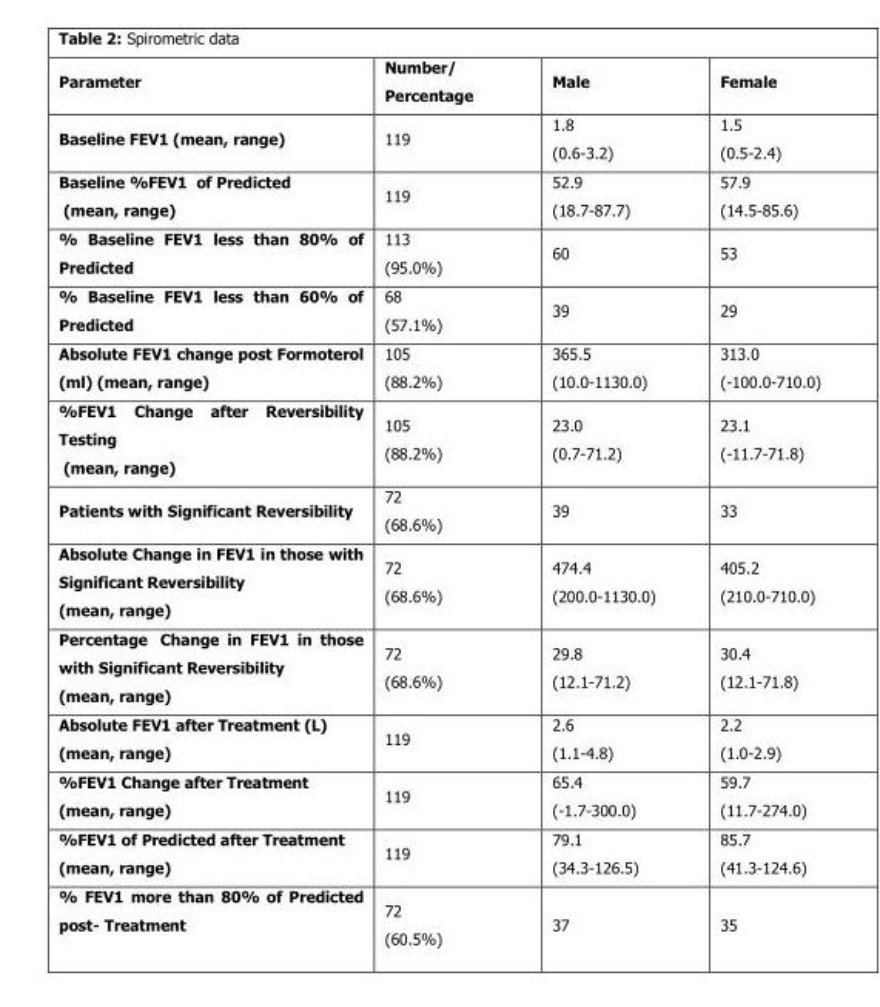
<table><thead><tr><td>Parameter</td><td>Number/ Percentage</td><td>Male</td><td>Female</td></tr></thead><tbody><tr><td>Baseline FEV1 (mean, range)</td><td>119</td><td>1.8 (0.6-3.2)</td><td>1.5 (0.5-2.4)</td></tr><tr><td>Baseline %FEV1 of Predicted (mean, range)</td><td>119</td><td>52.9 (18.7-87.7)</td><td>57.9 (14.5-85.6)</td></tr><tr><td>% Baseline FEV1 less than 80% of Predicted</td><td>113 (95.0%)</td><td>60</td><td>53</td></tr><tr><td>% Baseline FEV1 less than 60% of Predicted</td><td>68 (57.1%)</td><td>39</td><td>29</td></tr><tr><td>Absolute FEV1 change post Formoterol (ml) (mean, range)</td><td>105 (88.2%)</td><td>365.5 (10.0-1130.0)</td><td>313.0 (-100.0-710.0)</td></tr><tr><td>%FEV1 Change after Reversibility Testing (mean, range)</td><td>105 (88.2%)</td><td>23.0 (0.7-71.2)</td><td>23.1 (-11.7-71.8)</td></tr><tr><td>Patients with Significant Reversibility</td><td>72 (68.6%)</td><td>39</td><td>33</td></tr><tr><td>Absolute Change in FEV1 in those with Significant Reversibility (mean, range)</td><td>72 (68.6%)</td><td>474.4 (200.0-1130.0)</td><td>405.2 (210.0-710.0)</td></tr><tr><td>Percentage Change in FEV1 in those with Significant Reversibility (mean, range)</td><td>72 (68.6%)</td><td>29.8 (12.1-71.2)</td><td>30.4 (12.1-71.8)</td></tr><tr><td>Absolute FEV1 after Treatment (L) (mean, range)</td><td>119</td><td>2.6 (1.1-4.8)</td><td>2.2 (1.0-2.9)</td></tr><tr><td>%FEV1 Change after Treatment (mean, range)</td><td>119</td><td>65.4 (-1.7-300.0)</td><td>59.7 (11.7-274.0)</td></tr><tr><td>%FEV1 of Predicted after Treatment (mean, range)</td><td>119</td><td>79.1 (34.3-126.5)</td><td>85.7 (41.3-124.6)</td></tr><tr><td>% FEV1 more than 80% of Predicted post- Treatment</td><td>72 (60.5%)</td><td>37</td><td>35</td></tr></tbody></table>